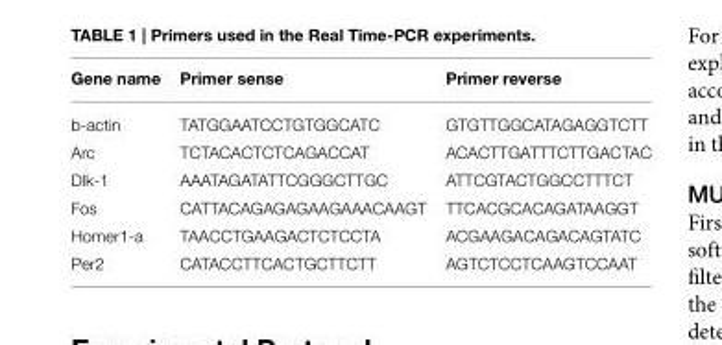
<table><thead><tr><td>Gene name</td><td>Primer sense</td><td>Primer reverse</td></tr></thead><tbody><tr><td>b-actin</td><td>TATGGAATCCTGTGGCATC</td><td>GTGTTGGCATAGAGGTCTT</td></tr><tr><td>Arc</td><td>TCTACACTCTCAGACCAT</td><td>ACACTTGATTTCTTGACTAC</td></tr><tr><td>Dlk-1</td><td>AAATAGATATTCGGGCTTGC</td><td>ATTCGTACTGGCCTTTCT</td></tr><tr><td>Fos</td><td>CATTACAGAGAGAAGAAACAAGT</td><td>TTCACGCACAGATAAGGT</td></tr><tr><td>Homer1-a</td><td>TAACCTGAAGACTCTCCTA</td><td>ACGAAGACAGACAGTATC</td></tr><tr><td>Per2</td><td>CATACCTTCACTGCTTCTT</td><td>AGTCTCCTCAAGTCCAAT</td></tr></tbody></table>